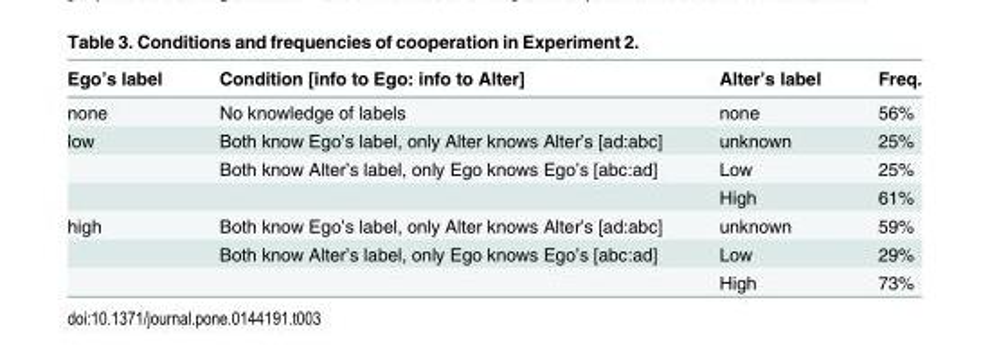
<table><thead><tr><td>Ego’s label</td><td>Condition [info to Ego: info to Alter]</td><td>Alter’s label</td><td>Freq.</td></tr></thead><tbody><tr><td>none</td><td>No knowledge of labels</td><td>none</td><td>56%</td></tr><tr><td rowspan="3">low</td><td>Both know Ego’s label, only Alter knows Alter’s [ad:abc]</td><td>unknown</td><td>25%</td></tr><tr><td>Both know Alter’s label, only Ego knows Ego’s [abc:ad]</td><td>Low</td><td>25%</td></tr><tr><td></td><td>High</td><td>61%</td></tr><tr><td rowspan="3">high</td><td>Both know Ego’s label, only Alter knows Alter’s [ad:abc]</td><td>unknown</td><td>59%</td></tr><tr><td>Both know Alter’s label, only Ego knows Ego’s [abc:ad]</td><td>Low</td><td>29%</td></tr><tr><td></td><td>High</td><td>73%</td></tr></tbody></table>